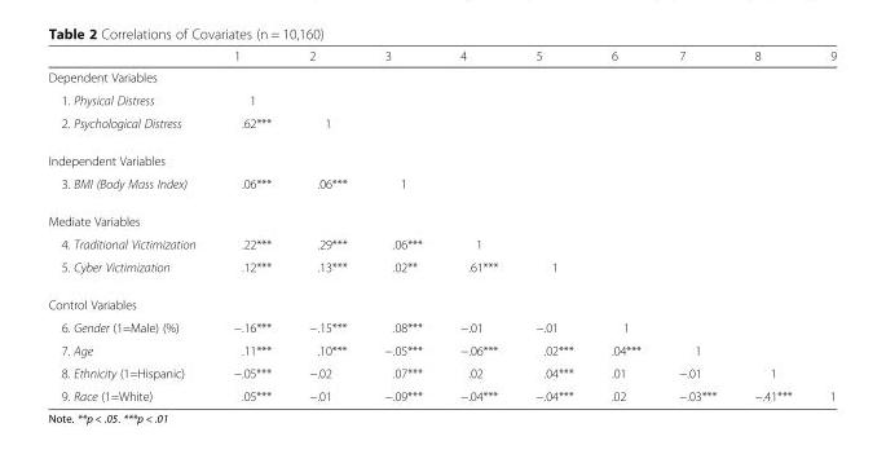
<table><thead><tr><td></td><td>1</td><td>2</td><td>3</td><td>4</td><td>5</td><td>6</td><td>7</td><td>8</td><td>9</td></tr></thead><tbody><tr><td colspan="10">Dependent Variables</td></tr><tr><td>1. Physical Distress</td><td>1</td><td colspan="8"></td></tr><tr><td>2. Psychological Distress</td><td>.62***</td><td>1</td><td colspan="7"></td></tr><tr><td colspan="10">Independent Variables</td></tr><tr><td>3. BMI (Body Mass Index)</td><td>.06***</td><td>.06***</td><td>1</td><td colspan="6"></td></tr><tr><td colspan="10">Mediate Variables</td></tr><tr><td>4. Traditional Victimization</td><td>.22***</td><td>.29***</td><td>.06***</td><td>1</td><td colspan="5"></td></tr><tr><td>5. Cyber Victimization</td><td>.12***</td><td>.13***</td><td>.02**</td><td>.61***</td><td>1</td><td colspan="4"></td></tr><tr><td colspan="10">Control Variables</td></tr><tr><td>6. Gender (1=Male) (%)</td><td>−.16***</td><td>−.15***</td><td>.08***</td><td>−.01</td><td>−.01</td><td>1</td><td colspan="3"></td></tr><tr><td>7. Age</td><td>.11***</td><td>.10***</td><td>−.05***</td><td>−.06***</td><td>.02***</td><td>.04***</td><td>1</td><td colspan="2"></td></tr><tr><td>8. Ethnicity (1=Hispanic)</td><td>−.05***</td><td>−.02</td><td>.07***</td><td>.02</td><td>.04***</td><td>.01</td><td>−.01</td><td>1</td><td></td></tr><tr><td>9. Race (1=White)</td><td>.05***</td><td>−.01</td><td>−.09***</td><td>−.04***</td><td>−.04***</td><td>.02</td><td>−.03***</td><td>−.41***</td><td>1</td></tr></tbody></table>